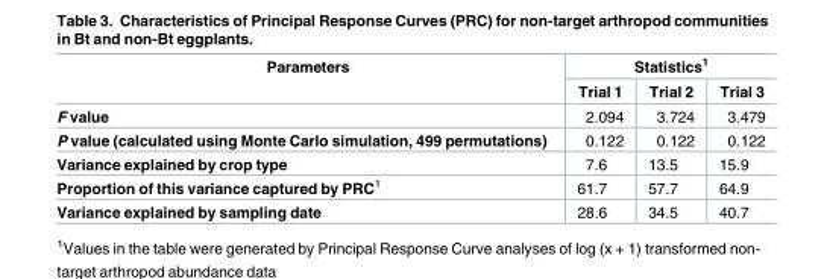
<table><thead><tr><td rowspan="2">Parameters</td><td colspan="3">Statistics<sup>1</sup></td></tr><tr><td>Trial 1</td><td>Trial 2</td><td>Trial 3</td></tr></thead><tbody><tr><td>F value</td><td>2.094</td><td>3.724</td><td>3.479</td></tr><tr><td>P value (calculated using Monte Carlo simulation, 499 permutations)</td><td>0.122</td><td>0.122</td><td>0.122</td></tr><tr><td>Variance explained by crop type</td><td>7.6</td><td>13.5</td><td>15.9</td></tr><tr><td>Proportion of this variance captured by PRC<sup>1</sup></td><td>61.7</td><td>57.7</td><td>64.9</td></tr><tr><td>Variance explained by sampling date</td><td>28.6</td><td>34.5</td><td>40.7</td></tr></tbody></table>